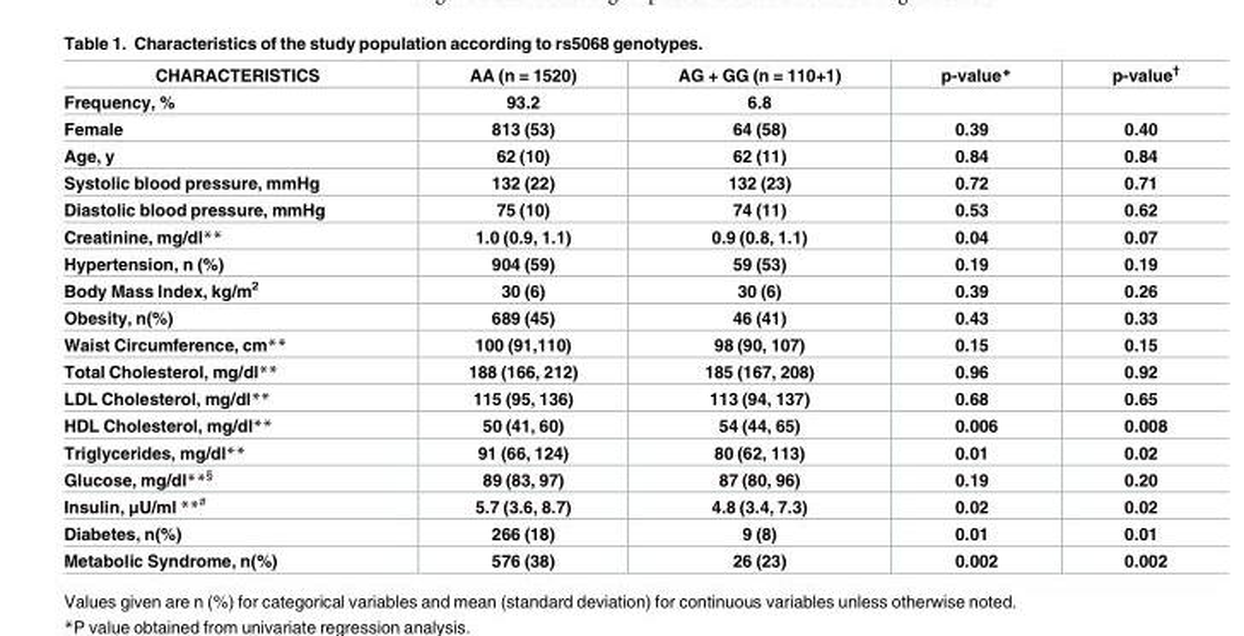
<table><thead><tr><td>CHARACTERISTICS</td><td>AA (n = 1520)</td><td>AG + GG (n = 110+1)</td><td>p-value*</td><td>p-value<sup>†</sup></td></tr></thead><tbody><tr><td>Frequency, %</td><td>93.2</td><td>6.8</td><td></td><td></td></tr><tr><td>Female</td><td>813 (53)</td><td>64 (58)</td><td>0.39</td><td>0.40</td></tr><tr><td>Age, y</td><td>62 (10)</td><td>62 (11)</td><td>0.84</td><td>0.84</td></tr><tr><td>Systolic blood pressure, mmHg</td><td>132 (22)</td><td>132 (23)</td><td>0.72</td><td>0.71</td></tr><tr><td>Diastolic blood pressure, mmHg</td><td>75 (10)</td><td>74 (11)</td><td>0.53</td><td>0.62</td></tr><tr><td>Creatinine, mg/dl**</td><td>1.0 (0.9, 1.1)</td><td>0.9 (0.8, 1.1)</td><td>0.04</td><td>0.07</td></tr><tr><td>Hypertension, n (%)</td><td>904 (59)</td><td>59 (53)</td><td>0.19</td><td>0.19</td></tr><tr><td>Body Mass Index, kg/m<sup>2</sup></td><td>30 (6)</td><td>30 (6)</td><td>0.39</td><td>0.26</td></tr><tr><td>Obesity, n(%)</td><td>689 (45)</td><td>46 (41)</td><td>0.43</td><td>0.33</td></tr><tr><td>Waist Circumference, cm**</td><td>100 (91,110)</td><td>98 (90, 107)</td><td>0.15</td><td>0.15</td></tr><tr><td>Total Cholesterol, mg/dl**</td><td>188 (166, 212)</td><td>185 (167, 208)</td><td>0.96</td><td>0.92</td></tr><tr><td>LDL Cholesterol, mg/dl**</td><td>115 (95, 136)</td><td>113 (94, 137)</td><td>0.68</td><td>0.65</td></tr><tr><td>HDL Cholesterol, mg/dl**</td><td>50 (41, 60)</td><td>54 (44, 65)</td><td>0.006</td><td>0.008</td></tr><tr><td>Triglycerides, mg/dl**</td><td>91 (66, 124)</td><td>80 (62, 113)</td><td>0.01</td><td>0.02</td></tr><tr><td>Glucose, mg/dl**<sup>§</sup></td><td>89 (83, 97)</td><td>87 (80, 96)</td><td>0.19</td><td>0.20</td></tr><tr><td>Insulin, μU/ml **<sup>#</sup></td><td>5.7 (3.6, 8.7)</td><td>4.8 (3.4, 7.3)</td><td>0.02</td><td>0.02</td></tr><tr><td>Diabetes, n(%)</td><td>266 (18)</td><td>9 (8)</td><td>0.01</td><td>0.01</td></tr><tr><td>Metabolic Syndrome, n(%)</td><td>576 (38)</td><td>26 (23)</td><td>0.002</td><td>0.002</td></tr></tbody></table>